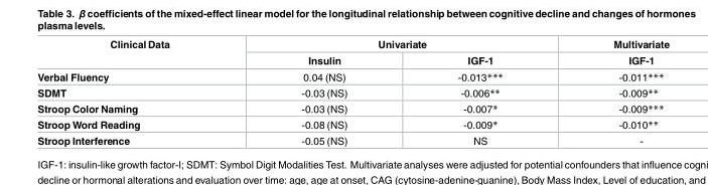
<table><thead><tr><td rowspan="2">Clinical Data</td><td colspan="2">Univariate</td><td rowspan="2">Multivariate IGF-1</td></tr><tr><td>Insulin</td><td>IGF-1</td></tr></thead><tbody><tr><td>Verbal Fluency</td><td>0.04 (NS)</td><td>-0.013***</td><td>-0.011***</td></tr><tr><td>SDMT</td><td>-0.03 (NS)</td><td>-0.006**</td><td>-0.009**</td></tr><tr><td>Stroop Color Naming</td><td>-0.03 (NS)</td><td>-0.007*</td><td>-0.009***</td></tr><tr><td>Stroop Word Reading</td><td>-0.08 (NS)</td><td>-0.009*</td><td>-0.010**</td></tr><tr><td>Stroop Interference</td><td>-0.05 (NS)</td><td>NS</td><td>-</td></tr></tbody></table>